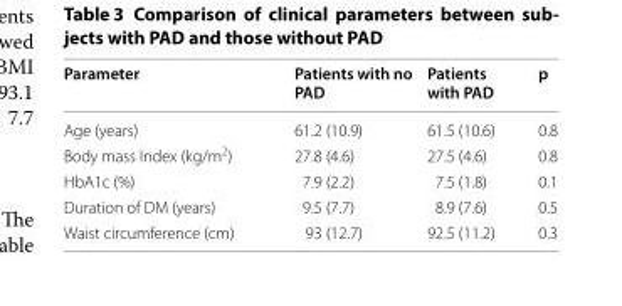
<table><thead><tr><td>Parameter</td><td>Patients with no PAD</td><td>Patients with PAD</td><td>p</td></tr></thead><tbody><tr><td>Age (years)</td><td>61.2 (10.9)</td><td>61.5 (10.6)</td><td>0.8</td></tr><tr><td>Body mass Index (kg/m<sup>2</sup>)</td><td>27.8 (4.6)</td><td>27.5 (4.6)</td><td>0.8</td></tr><tr><td>HbA1c (%)</td><td>7.9 (2.2)</td><td>7.5 (1.8)</td><td>0.1</td></tr><tr><td>Duration of DM (years)</td><td>9.5 (7.7)</td><td>8.9 (7.6)</td><td>0.5</td></tr><tr><td>Waist circumference (cm)</td><td>93 (12.7)</td><td>92.5 (11.2)</td><td>0.3</td></tr></tbody></table>